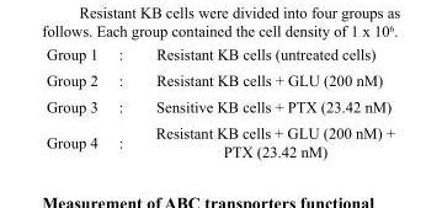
<table><tbody><tr><td>Group 1</td><td>:</td><td>Resistant KB cells (untreated cells)</td></tr><tr><td>Group 2</td><td>:</td><td>Resistant KB cells + GLU (200 nM)</td></tr><tr><td>Group 3</td><td>:</td><td>Sensitive KB cells + PTX (23.42 nM)</td></tr><tr><td>Group 4</td><td>:</td><td>Resistant KB cells + GLU (200 nM) + PTX (23.42 nM)</td></tr></tbody></table>